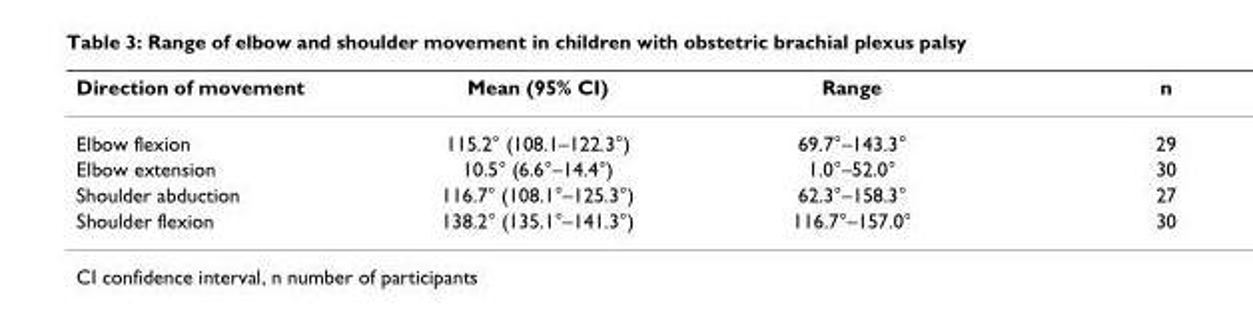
<table><thead><tr><td>Direction of movement</td><td>Mean (95% CI)</td><td>Range</td><td>n</td></tr></thead><tbody><tr><td>Elbow flexion</td><td>115.2° (108.1–122.3°)</td><td>69.7°–143.3°</td><td>29</td></tr><tr><td>Elbow extension</td><td>10.5° (6.6°–14.4°)</td><td>1.0°–52.0°</td><td>30</td></tr><tr><td>Shoulder abduction</td><td>116.7° (108.1°–125.3°)</td><td>62.3°–158.3°</td><td>27</td></tr><tr><td>Shoulder flexion</td><td>138.2° (135.1°–141.3°)</td><td>116.7°–157.0°</td><td>30</td></tr></tbody></table>